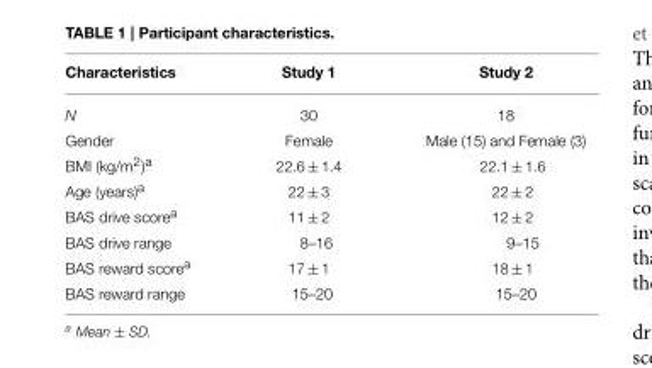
<table><thead><tr><td>Characteristics</td><td>Study 1</td><td>Study 2</td></tr></thead><tbody><tr><td>N</td><td>30</td><td>18</td></tr><tr><td>Gender</td><td>Female</td><td>Male (15) and Female (3)</td></tr><tr><td>BMI (kg/m<sup>2</sup>)<sup>a</sup></td><td>22.6 ± 1.4</td><td>22.1 ± 1.6</td></tr><tr><td>Age (years)<sup>a</sup></td><td>22 ± 3</td><td>22 ± 2</td></tr><tr><td>BAS drive score<sup>a</sup></td><td>11 ± 2</td><td>12 ± 2</td></tr><tr><td>BAS drive range</td><td>8–16</td><td>9–15</td></tr><tr><td>BAS reward score<sup>a</sup></td><td>17 ± 1</td><td>18 ± 1</td></tr><tr><td>BAS reward range</td><td>15–20</td><td>15–20</td></tr></tbody></table>